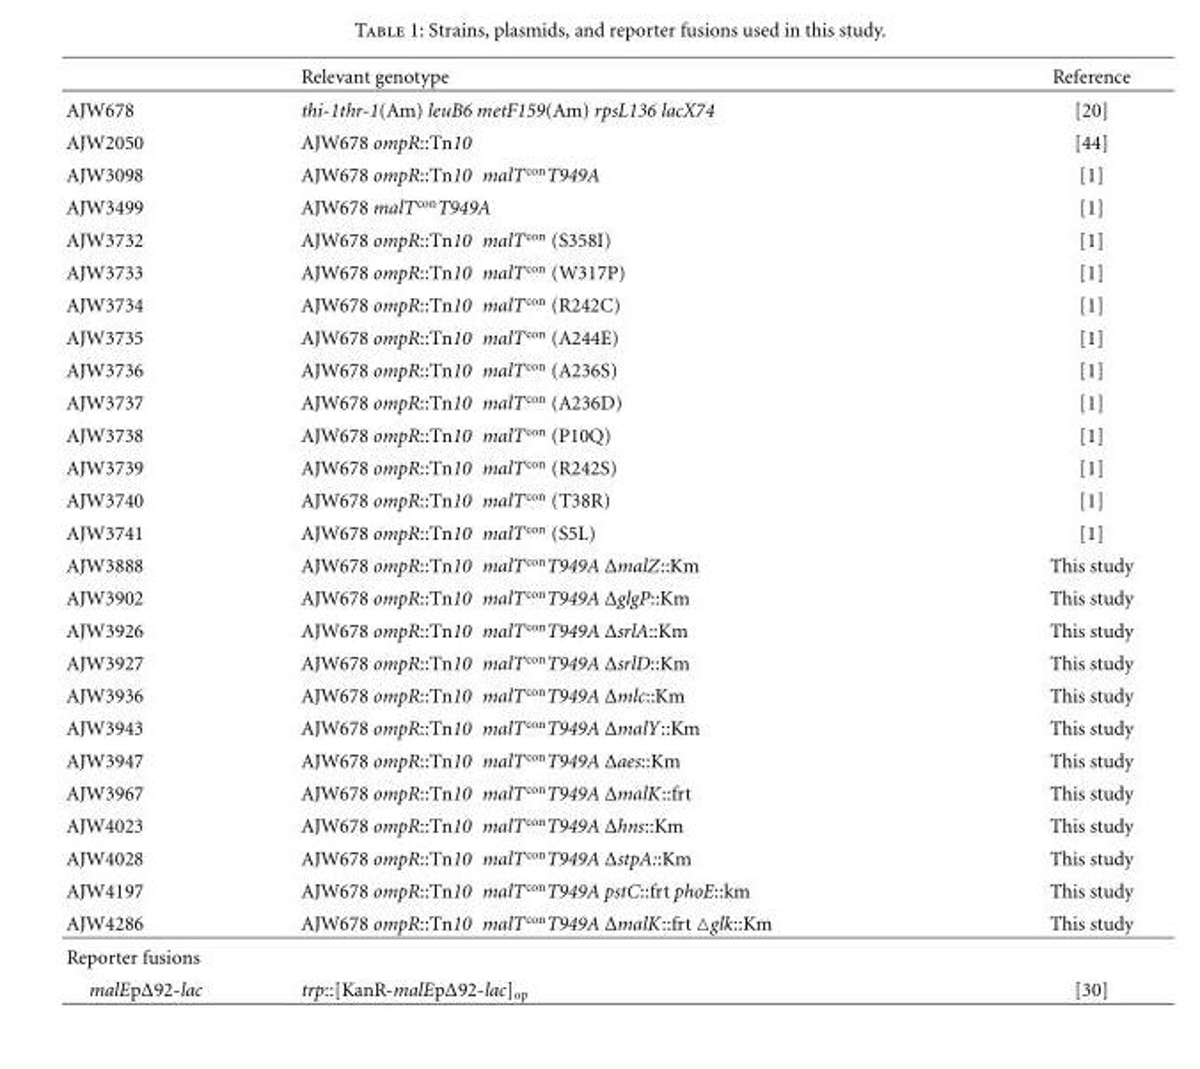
<table><thead><tr><td></td><td>Relevant genotype</td><td>Reference</td></tr></thead><tbody><tr><td>AJW678</td><td>thi-1thr-1(Am) leuB6 metF159(Am) rpsL136 lacX74</td><td>[20]</td></tr><tr><td>AJW2050</td><td>AJW678 ompR::Tn10</td><td>[44]</td></tr><tr><td>AJW3098</td><td>AJW678 ompR::Tn10 malT<sup>con</sup>T949A</td><td>[1]</td></tr><tr><td>AJW3499</td><td>AJW678 malT<sup>con</sup>T949A</td><td>[1]</td></tr><tr><td>AJW3732</td><td>AJW678 ompR::Tn10 malT<sup>con</sup> (S358I)</td><td>[1]</td></tr><tr><td>AJW3733</td><td>AJW678 ompR::Tn10 malT<sup>con</sup> (W317P)</td><td>[1]</td></tr><tr><td>AJW3734</td><td>AJW678 ompR::Tn10 malT<sup>con</sup> (R242C)</td><td>[1]</td></tr><tr><td>AJW3735</td><td>AJW678 ompR::Tn10 malT<sup>con</sup> (A244E)</td><td>[1]</td></tr><tr><td>AJW3736</td><td>AJW678 ompR::Tn10 malT<sup>con</sup> (A236S)</td><td>[1]</td></tr><tr><td>AJW3737</td><td>AJW678 ompR::Tn10 malT<sup>con</sup> (A236D)</td><td>[1]</td></tr><tr><td>AJW3738</td><td>AJW678 ompR::Tn10 malT<sup>con</sup> (P10Q)</td><td>[1]</td></tr><tr><td>AJW3739</td><td>AJW678 ompR::Tn10 malT<sup>con</sup> (R242S)</td><td>[1]</td></tr><tr><td>AJW3740</td><td>AJW678 ompR::Tn10 malT<sup>con</sup> (T38R)</td><td>[1]</td></tr><tr><td>AJW3741</td><td>AJW678 ompR::Tn10 malT<sup>con</sup> (S5L)</td><td>[1]</td></tr><tr><td>AJW3888</td><td>AJW678 ompR::Tn10 malT<sup>con</sup>T949A ΔmalZ::Km</td><td>This study</td></tr><tr><td>AJW3902</td><td>AJW678 ompR::Tn10 malT<sup>con</sup>T949A ΔglgP::Km</td><td>This study</td></tr><tr><td>AJW3926</td><td>AJW678 ompR::Tn10 malT<sup>con</sup>T949A ΔsrlA::Km</td><td>This study</td></tr><tr><td>AJW3927</td><td>AJW678 ompR::Tn10 malT<sup>con</sup>T949A ΔsrlD::Km</td><td>This study</td></tr><tr><td>AJW3936</td><td>AJW678 ompR::Tn10 malT<sup>con</sup>T949A Δmlc::Km</td><td>This study</td></tr><tr><td>AJW3943</td><td>AJW678 ompR::Tn10 malT<sup>con</sup>T949A ΔmalY::Km</td><td>This study</td></tr><tr><td>AJW3947</td><td>AJW678 ompR::Tn10 malT<sup>con</sup>T949A Δaes::Km</td><td>This study</td></tr><tr><td>AJW3967</td><td>AJW678 ompR::Tn10 malT<sup>con</sup>T949A ΔmalK::frt</td><td>This study</td></tr><tr><td>AJW4023</td><td>AJW678 ompR::Tn10 malT<sup>con</sup>T949A Δhns::Km</td><td>This study</td></tr><tr><td>AJW4028</td><td>AJW678 ompR::Tn10 malT<sup>con</sup>T949A ΔstpA::Km</td><td>This study</td></tr><tr><td>AJW4197</td><td>AJW678 ompR::Tn10 malT<sup>con</sup>T949A pstC::frt phoE::km</td><td>This study</td></tr><tr><td>AJW4286</td><td>AJW678 ompR::Tn10 malTconT949A ΔmalK::frt △glk::Km</td><td>This study</td></tr><tr><td colspan="3">Reporter fusions</td></tr><tr><td>malEpΔ92-lac</td><td>trp::[KanR-malEpΔ92-lac]<sub>op</sub></td><td>[30]</td></tr></tbody></table>